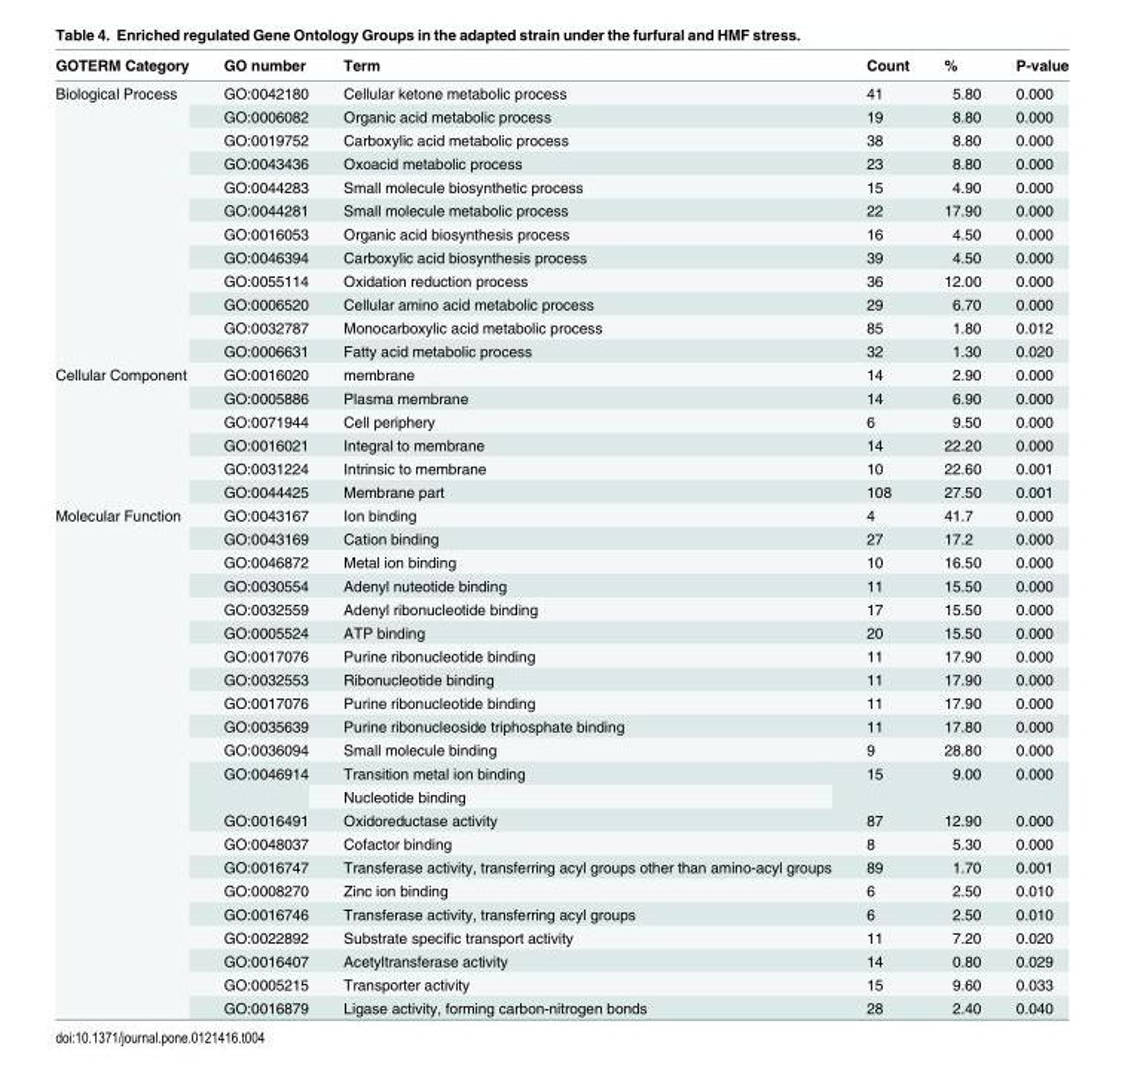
<table><thead><tr><td>GOTERM Category</td><td>GO number</td><td>Term</td><td>Count</td><td>%</td><td>P-value</td></tr></thead><tbody><tr><td rowspan="12">Biological Process</td><td>GO:0042180</td><td>Cellular ketone metabolic process</td><td>41</td><td>5.80</td><td>0.000</td></tr><tr><td>GO:0006082</td><td>Organic acid metabolic process</td><td>19</td><td>8.80</td><td>0.000</td></tr><tr><td>GO:0019752</td><td>Carboxylic acid metabolic process</td><td>38</td><td>8.80</td><td>0.000</td></tr><tr><td>GO:0043436</td><td>Oxoacid metabolic process</td><td>23</td><td>8.80</td><td>0.000</td></tr><tr><td>GO:0044283</td><td>Small molecule biosynthetic process</td><td>15</td><td>4.90</td><td>0.000</td></tr><tr><td>GO:0044281</td><td>Small molecule metabolic process</td><td>22</td><td>17.90</td><td>0.000</td></tr><tr><td>GO:0016053</td><td>Organic acid biosynthesis process</td><td>16</td><td>4.50</td><td>0.000</td></tr><tr><td>GO:0046394</td><td>Carboxylic acid biosynthesis process</td><td>39</td><td>4.50</td><td>0.000</td></tr><tr><td>GO:0055114</td><td>Oxidation reduction process</td><td>36</td><td>12.00</td><td>0.000</td></tr><tr><td>GO:0006520</td><td>Cellular amino acid metabolic process</td><td>29</td><td>6.70</td><td>0.000</td></tr><tr><td>GO:0032787</td><td>Monocarboxylic acid metabolic process</td><td>85</td><td>1.80</td><td>0.012</td></tr><tr><td>GO:0006631</td><td>Fatty acid metabolic process</td><td>32</td><td>1.30</td><td>0.020</td></tr><tr><td rowspan="6">Cellular Component</td><td>GO:0016020</td><td>membrane</td><td>14</td><td>2.90</td><td>0.000</td></tr><tr><td>GO:0005886</td><td>Plasma membrane</td><td>14</td><td>6.90</td><td>0.000</td></tr><tr><td>GO:0071944</td><td>Cell periphery</td><td>6</td><td>9.50</td><td>0.000</td></tr><tr><td>GO:0016021</td><td>Integral to membrane</td><td>14</td><td>22.20</td><td>0.000</td></tr><tr><td>GO:0031224</td><td>Intrinsic to membrane</td><td>10</td><td>22.60</td><td>0.001</td></tr><tr><td>GO:0044425</td><td>Membrane part</td><td>108</td><td>27.50</td><td>0.001</td></tr><tr><td rowspan="22">Molecular Function</td><td>GO:0043167</td><td>Ion binding</td><td>4</td><td>41.7</td><td>0.000</td></tr><tr><td>GO:0043169</td><td>Cation binding</td><td>27</td><td>17.2</td><td>0.000</td></tr><tr><td>GO:0046872</td><td>Metal ion binding</td><td>10</td><td>16.50</td><td>0.000</td></tr><tr><td>GO:0030554</td><td>Adenyl nuteotide binding</td><td>11</td><td>15.50</td><td>0.000</td></tr><tr><td>GO:0032559</td><td>Adenyl ribonucleotide binding</td><td>17</td><td>15.50</td><td>0.000</td></tr><tr><td>GO:0005524</td><td>ATP binding</td><td>20</td><td>15.50</td><td>0.000</td></tr><tr><td>GO:0017076</td><td>Purine ribonucleotide binding</td><td>11</td><td>17.90</td><td>0.000</td></tr><tr><td>GO:0032553</td><td>Ribonucleotide binding</td><td>11</td><td>17.90</td><td>0.000</td></tr><tr><td>GO:0017076</td><td>Purine ribonucleotide binding</td><td>11</td><td>17.90</td><td>0.000</td></tr><tr><td>GO:0035639</td><td>Purine ribonucleoside triphosphate binding</td><td>11</td><td>17.80</td><td>0.000</td></tr><tr><td>GO:0036094</td><td>Small molecule binding</td><td>9</td><td>28.80</td><td>0.000</td></tr><tr><td rowspan="2">GO:0046914</td><td>Transition metal ion binding</td><td rowspan="2">15</td><td rowspan="2">9.00</td><td rowspan="2">0.000</td></tr><tr><td>Nucleotide binding</td></tr><tr><td>GO:0016491</td><td>Oxidoreductase activity</td><td>87</td><td>12.90</td><td>0.000</td></tr><tr><td>GO:0048037</td><td>Cofactor binding</td><td>8</td><td>5.30</td><td>0.000</td></tr><tr><td>GO:0016747</td><td>Transferase activity, transferring acyl groups other than amino-acyl groups</td><td>89</td><td>1.70</td><td>0.001</td></tr><tr><td>GO:0008270</td><td>Zinc ion binding</td><td>6</td><td>2.50</td><td>0.010</td></tr><tr><td>GO:0016746</td><td>Transferase activity, transferring acyl groups</td><td>6</td><td>2.50</td><td>0.010</td></tr><tr><td>GO:0022892</td><td>Substrate specific transport activity</td><td>11</td><td>7.20</td><td>0.020</td></tr><tr><td>GO:0016407</td><td>Acetyltransferase activity</td><td>14</td><td>0.80</td><td>0.029</td></tr><tr><td>GO:0005215</td><td>Transporter activity</td><td>15</td><td>9.60</td><td>0.033</td></tr><tr><td>GO:0016879</td><td>Ligase activity, forming carbon-nitrogen bonds</td><td>28</td><td>2.40</td><td>0.040</td></tr></tbody></table>